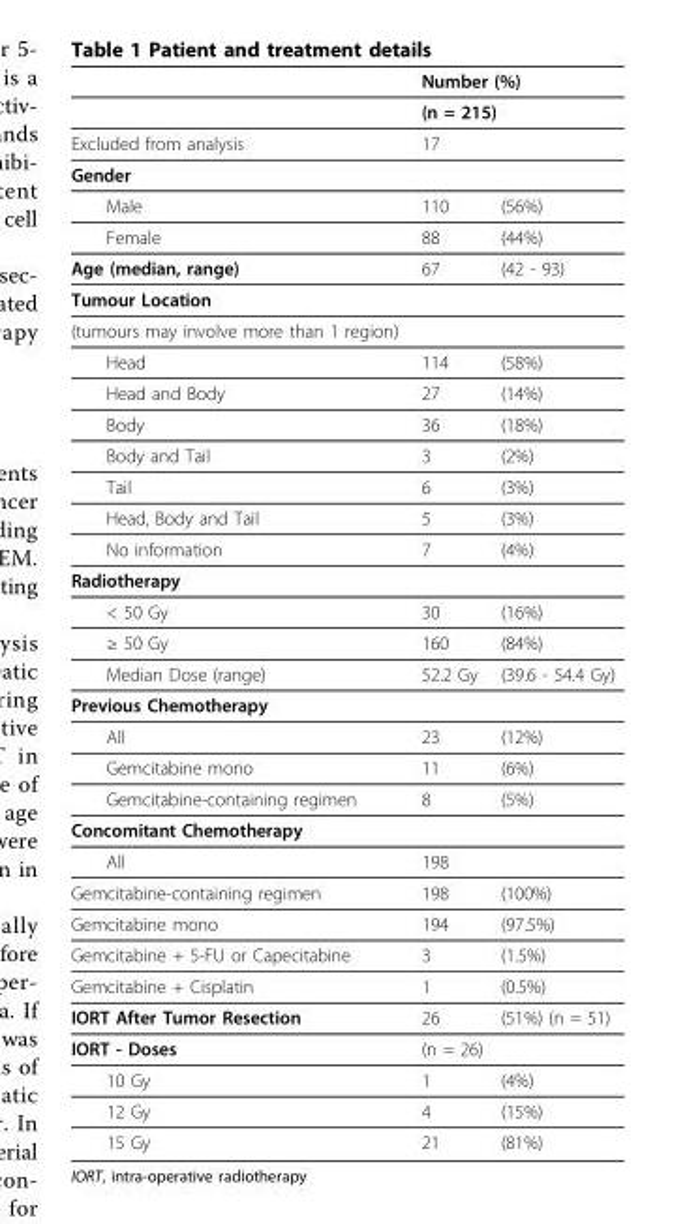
<table><thead><tr><td rowspan="3">Excluded from analysis</td><td rowspan="2" colspan="2">Number (%) (n = 215)</td></tr><tr></tr><tr><td>17</td><td></td></tr></thead><tbody><tr><td colspan="3">Gender</td></tr><tr><td>Male</td><td>110</td><td>(56%)</td></tr><tr><td>Female</td><td>88</td><td>(44%)</td></tr><tr><td>Age (median, range)</td><td>67</td><td>(42 - 93)</td></tr><tr><td colspan="3">Tumour Location</td></tr><tr><td colspan="3">(tumours may involve more than 1 region)</td></tr><tr><td>Head</td><td>114</td><td>(58%)</td></tr><tr><td>Head and Body</td><td>27</td><td>(14%)</td></tr><tr><td>Body</td><td>36</td><td>(18%)</td></tr><tr><td>Body and Tail</td><td>3</td><td>(2%)</td></tr><tr><td>Tail</td><td>6</td><td>(3%)</td></tr><tr><td>Head, Body and Tail</td><td>5</td><td>(3%)</td></tr><tr><td>No information</td><td>7</td><td>(4%)</td></tr><tr><td colspan="3">Radiotherapy</td></tr><tr><td>&lt; 50 Gy</td><td>30</td><td>(16%)</td></tr><tr><td>≥ 50 Gy</td><td>160</td><td>(84%)</td></tr><tr><td>Median Dose (range)</td><td>52.2 Gy</td><td>(39.6 - 54.4 Gy)</td></tr><tr><td colspan="3">Previous Chemotherapy</td></tr><tr><td>All</td><td>23</td><td>(12%)</td></tr><tr><td>Gemcitabine mono</td><td>11</td><td>(6%)</td></tr><tr><td>Gemcitabine-containing regimen</td><td>8</td><td>(5%)</td></tr><tr><td colspan="3">Concomitant Chemotherapy</td></tr><tr><td>All</td><td>198</td><td></td></tr><tr><td>Gemcitabine-containing regimen</td><td>198</td><td>(100%)</td></tr><tr><td>Gemcitabine mono</td><td>194</td><td>(97.5%)</td></tr><tr><td>Gemcitabine + 5-FU or Capecitabine</td><td>3</td><td>(1.5%)</td></tr><tr><td>Gemcitabine + Cisplatin</td><td>1</td><td>(0.5%)</td></tr><tr><td>IORT After Tumor Resection</td><td>26</td><td>(51%) (n = 51)</td></tr><tr><td>IORT - Doses</td><td colspan="2">(n = 26)</td></tr><tr><td>10 Gy</td><td>1</td><td>(4%)</td></tr><tr><td>12 Gy</td><td>4</td><td>(15%)</td></tr><tr><td>15 Gy</td><td>21</td><td>(81%)</td></tr></tbody></table>